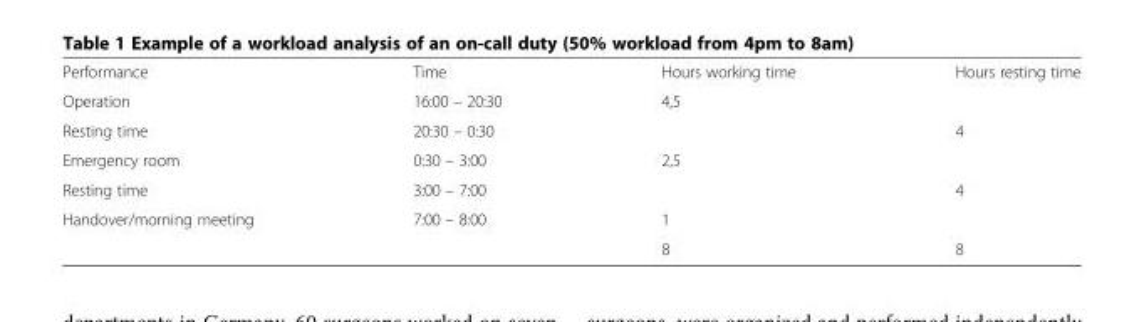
<table><tbody><tr><td>Performance</td><td>Time</td><td>Hours working time</td><td>Hours resting time</td></tr><tr><td>Operation</td><td>16:00 – 20:30</td><td>4,5</td><td></td></tr><tr><td>Resting time</td><td>20:30 – 0:30</td><td></td><td>4</td></tr><tr><td>Emergency room</td><td>0:30 – 3:00</td><td>2,5</td><td></td></tr><tr><td>Resting time</td><td>3:00 – 7:00</td><td></td><td>4</td></tr><tr><td rowspan="2">Handover/morning meeting</td><td>7:00 – 8:00</td><td>1</td><td></td></tr><tr><td></td><td>8</td><td>8</td></tr></tbody></table>